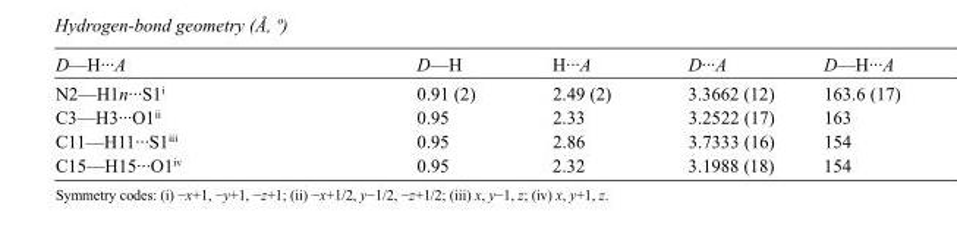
<table><tbody><tr><td>D—H···A</td><td>D—H</td><td>H···A</td><td>D···A</td><td>D—H···A</td></tr><tr><td>N2—H1n···S1<sup>i</sup></td><td>0.91 (2)</td><td>2.49 (2)</td><td>3.3662 (12)</td><td>163.6 (17)</td></tr><tr><td>C3—H3···O1<sup>ii</sup></td><td>0.95</td><td>2.33</td><td>3.2522 (17)</td><td>163</td></tr><tr><td>C11—H11···S1<sup>iii</sup></td><td>0.95</td><td>2.86</td><td>3.7333 (16)</td><td>154</td></tr><tr><td>C15—H15···O1<sup>iv</sup></td><td>0.95</td><td>2.32</td><td>3.1988 (18)</td><td>154</td></tr></tbody></table>